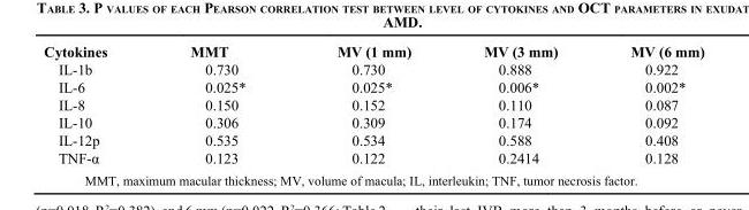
<table><thead><tr><td>Cytokines</td><td>MMT</td><td>MV (1 mm)</td><td>MV (3 mm)</td><td>MV (6 mm)</td></tr></thead><tbody><tr><td>IL-1b</td><td>0.730</td><td>0.730</td><td>0.888</td><td>0.922</td></tr><tr><td>IL-6</td><td>0.025*</td><td>0.025*</td><td>0.006*</td><td>0.002*</td></tr><tr><td>IL-8</td><td>0.150</td><td>0.152</td><td>0.110</td><td>0.087</td></tr><tr><td>IL-10</td><td>0.306</td><td>0.309</td><td>0.174</td><td>0.092</td></tr><tr><td>IL-12p</td><td>0.535</td><td>0.534</td><td>0.588</td><td>0.408</td></tr><tr><td>TNF-α</td><td>0.123</td><td>0.122</td><td>0.2414</td><td>0.128</td></tr></tbody></table>